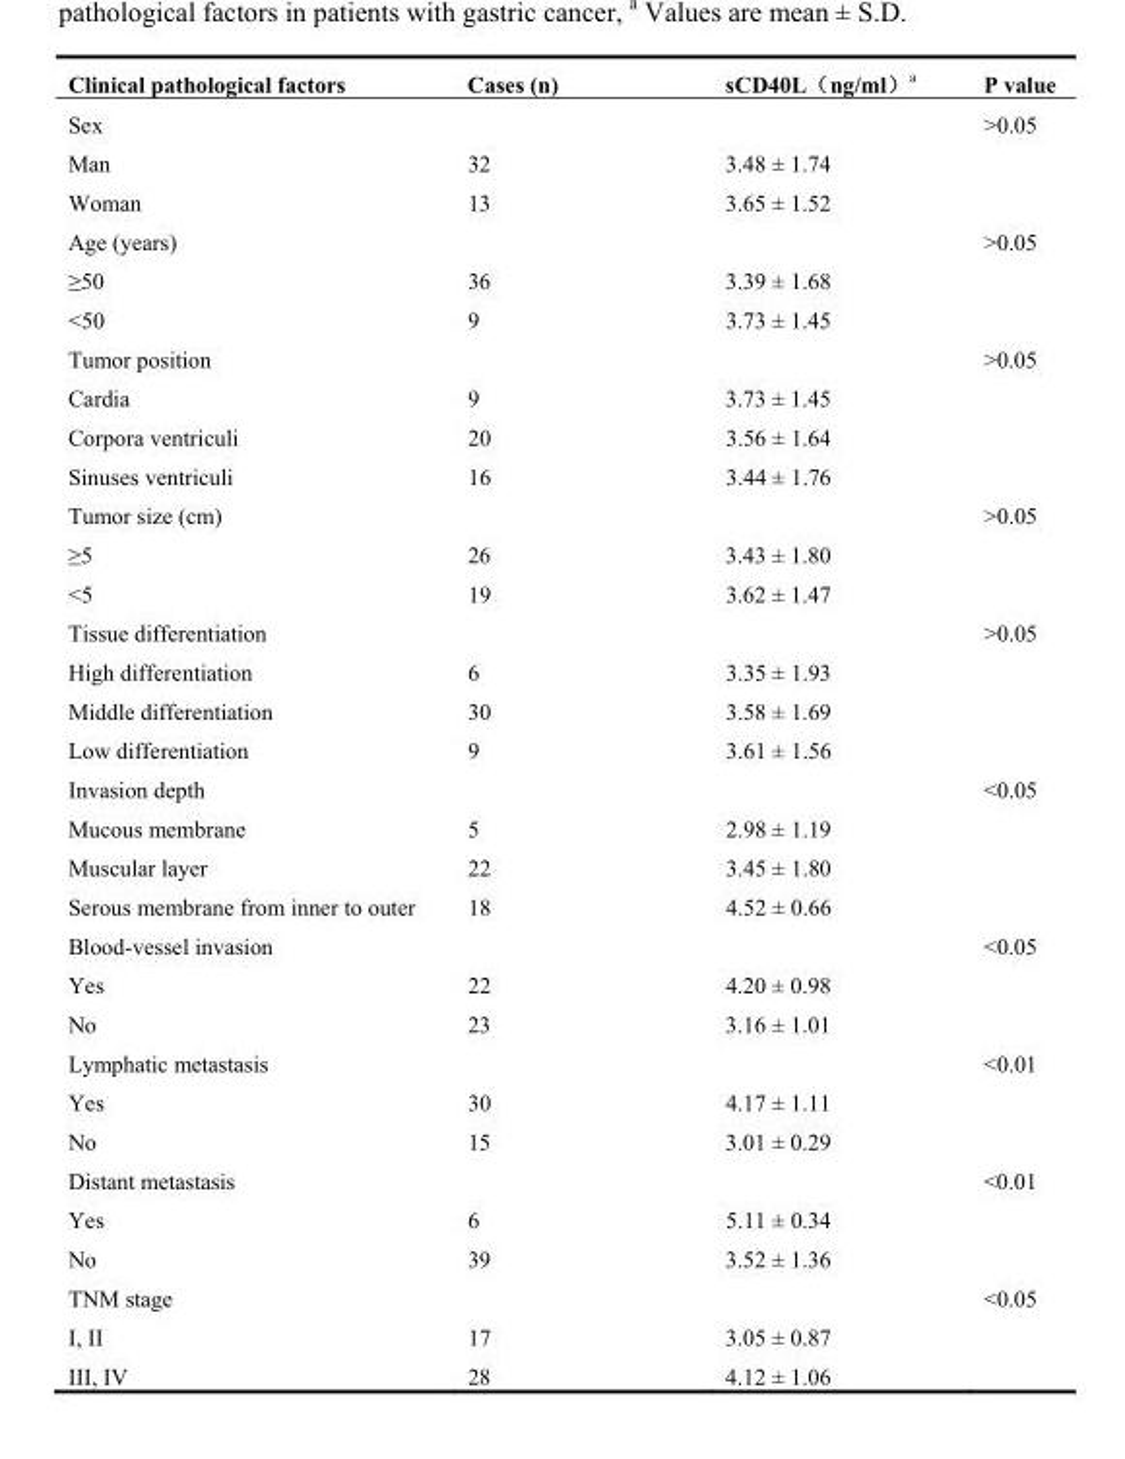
<table><thead><tr><td>Clinical pathological factors</td><td>Cases (n)</td><td>（ ） sCD40L ng/ml a</td><td>P value</td></tr></thead><tbody><tr><td>Sex</td><td></td><td></td><td>&gt;0.05</td></tr><tr><td>Man</td><td>32</td><td>3.48 ± 1.74</td><td></td></tr><tr><td>Woman</td><td>13</td><td>3.65 ± 1.52</td><td></td></tr><tr><td>Age (years)</td><td></td><td></td><td>&gt;0.05</td></tr><tr><td>≥50</td><td>36</td><td>3.39 ± 1.68</td><td></td></tr><tr><td>&lt;50</td><td>9</td><td>3.73 ± 1.45</td><td></td></tr><tr><td>Tumor position</td><td></td><td></td><td>&gt;0.05</td></tr><tr><td>Cardia</td><td>9</td><td>3.73 ± 1.45</td><td></td></tr><tr><td>Corpora ventriculi</td><td>20</td><td>3.56 ± 1.64</td><td></td></tr><tr><td>Sinuses ventriculi</td><td>16</td><td>3.44 ± 1.76</td><td></td></tr><tr><td>Tumor size (cm)</td><td></td><td></td><td>&gt;0.05</td></tr><tr><td>≥5</td><td>26</td><td>3.43 ± 1.80</td><td></td></tr><tr><td>&lt;5</td><td>19</td><td>3.62 ± 1.47</td><td></td></tr><tr><td>Tissue differentiation</td><td></td><td></td><td>&gt;0.05</td></tr><tr><td>High differentiation</td><td>6</td><td>3.35 ± 1.93</td><td></td></tr><tr><td>Middle differentiation</td><td>30</td><td>3.58 ± 1.69</td><td></td></tr><tr><td>Low differentiation</td><td>9</td><td>3.61 ± 1.56</td><td></td></tr><tr><td>Invasion depth</td><td></td><td></td><td>&lt;0.05</td></tr><tr><td>Mucous membrane</td><td>5</td><td>2.98 ± 1.19</td><td></td></tr><tr><td>Muscular layer</td><td>22</td><td>3.45 ± 1.80</td><td></td></tr><tr><td>Serous membrane from inner to outer</td><td>18</td><td>4.52 ± 0.66</td><td></td></tr><tr><td>Blood-vessel invasion</td><td></td><td></td><td>&lt;0.05</td></tr><tr><td>Yes</td><td>22</td><td>4.20 ± 0.98</td><td></td></tr><tr><td>No</td><td>23</td><td>3.16 ± 1.01</td><td></td></tr><tr><td>Lymphatic metastasis</td><td></td><td></td><td>&lt;0.01</td></tr><tr><td>Yes</td><td>30</td><td>4.17 ± 1.11</td><td></td></tr><tr><td>No</td><td>15</td><td>3.01 ± 0.29</td><td></td></tr><tr><td>Distant metastasis</td><td></td><td></td><td>&lt;0.01</td></tr><tr><td>Yes</td><td>6</td><td>5.11 ± 0.34</td><td></td></tr><tr><td>No</td><td>39</td><td>3.52 ± 1.36</td><td></td></tr><tr><td>TNM stage</td><td></td><td></td><td>&lt;0.05</td></tr><tr><td>I, II</td><td>17</td><td>3.05 ± 0.87</td><td></td></tr><tr><td>III, IV</td><td>28</td><td>4.12 ± 1.06</td><td></td></tr></tbody></table>